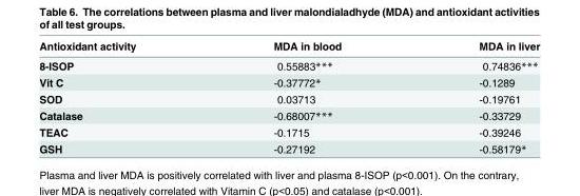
<table><thead><tr><td>Antioxidant activity</td><td>MDA in blood</td><td>MDA in liver</td></tr></thead><tbody><tr><td>8-ISOP</td><td>0.55883***</td><td>0.74836***</td></tr><tr><td>Vit C</td><td>-0.37772*</td><td>-0.1289</td></tr><tr><td>SOD</td><td>0.03713</td><td>-0.19761</td></tr><tr><td>Catalase</td><td>-0.68007***</td><td>-0.33729</td></tr><tr><td>TEAC</td><td>-0.1715</td><td>-0.39246</td></tr><tr><td>GSH</td><td>-0.27192</td><td>-0.58179*</td></tr></tbody></table>